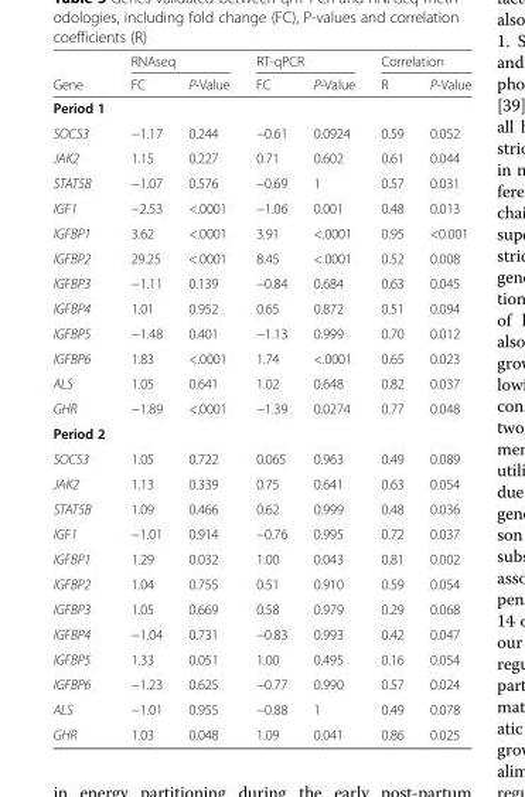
<table><thead><tr><td rowspan="2">Gene</td><td colspan="2">RNAseq</td><td colspan="2">RT-qPCR</td><td colspan="2">Correlation</td></tr><tr><td>FC</td><td>P-Value</td><td>FC</td><td>P-Value</td><td>R</td><td>P-Value</td></tr></thead><tbody><tr><td colspan="7">Period 1</td></tr><tr><td>SOCS3</td><td>−1.17</td><td>0.244</td><td>−0.61</td><td>0.0924</td><td>0.59</td><td>0.052</td></tr><tr><td>JAK2</td><td>1.15</td><td>0.227</td><td>0.71</td><td>0.602</td><td>0.61</td><td>0.044</td></tr><tr><td>STAT5B</td><td>−1.07</td><td>0.576</td><td>−0.69</td><td>1</td><td>0.57</td><td>0.031</td></tr><tr><td>IGF1</td><td>−2.53</td><td>&lt;.0001</td><td>−1.06</td><td>0.001</td><td>0.48</td><td>0.013</td></tr><tr><td>IGFBP1</td><td>3.62</td><td>&lt;.0001</td><td>3.91</td><td>&lt;.0001</td><td>0.95</td><td>&lt;0.001</td></tr><tr><td>IGFBP2</td><td>29.25</td><td>&lt;.0001</td><td>8.45</td><td>&lt;.0001</td><td>0.52</td><td>0.008</td></tr><tr><td>IGFBP3</td><td>−1.11</td><td>0.139</td><td>−0.84</td><td>0.684</td><td>0.63</td><td>0.045</td></tr><tr><td>IGFBP4</td><td>1.01</td><td>0.952</td><td>0.65</td><td>0.872</td><td>0.51</td><td>0.094</td></tr><tr><td>IGFBP5</td><td>−1.48</td><td>0.401</td><td>−1.13</td><td>0.999</td><td>0.70</td><td>0.012</td></tr><tr><td>IGFBP6</td><td>1.83</td><td>&lt;.0001</td><td>1.74</td><td>&lt;.0001</td><td>0.65</td><td>0.023</td></tr><tr><td>ALS</td><td>1.05</td><td>0.641</td><td>1.02</td><td>0.648</td><td>0.82</td><td>0.037</td></tr><tr><td>GHR</td><td>−1.89</td><td>&lt;.0001</td><td>−1.39</td><td>0.0274</td><td>0.77</td><td>0.048</td></tr><tr><td colspan="7">Period 2</td></tr><tr><td>SOCS3</td><td>1.05</td><td>0.722</td><td>0.065</td><td>0.963</td><td>0.49</td><td>0.089</td></tr><tr><td>JAK2</td><td>1.13</td><td>0.339</td><td>0.75</td><td>0.641</td><td>0.63</td><td>0.054</td></tr><tr><td>STAT5B</td><td>1.09</td><td>0.466</td><td>0.62</td><td>0.999</td><td>0.48</td><td>0.036</td></tr><tr><td>IGF1</td><td>−1.01</td><td>0.914</td><td>−0.76</td><td>0.995</td><td>0.72</td><td>0.037</td></tr><tr><td>IGFBP1</td><td>1.29</td><td>0.032</td><td>1.00</td><td>0.043</td><td>0.81</td><td>0.002</td></tr><tr><td>IGFBP2</td><td>1.04</td><td>0.755</td><td>0.51</td><td>0.910</td><td>0.59</td><td>0.054</td></tr><tr><td>IGFBP3</td><td>1.05</td><td>0.669</td><td>0.58</td><td>0.979</td><td>0.29</td><td>0.068</td></tr><tr><td>IGFBP4</td><td>−1.04</td><td>0.731</td><td>−0.83</td><td>0.993</td><td>0.42</td><td>0.047</td></tr><tr><td>IGFBP5</td><td>1.33</td><td>0.051</td><td>1.00</td><td>0.495</td><td>0.16</td><td>0.054</td></tr><tr><td>IGFBP6</td><td>−1.23</td><td>0.625</td><td>−0.77</td><td>0.990</td><td>0.57</td><td>0.024</td></tr><tr><td>ALS</td><td>−1.01</td><td>0.955</td><td>−0.88</td><td>1</td><td>0.49</td><td>0.078</td></tr><tr><td>GHR</td><td>1.03</td><td>0.048</td><td>1.09</td><td>0.041</td><td>0.86</td><td>0.025</td></tr></tbody></table>